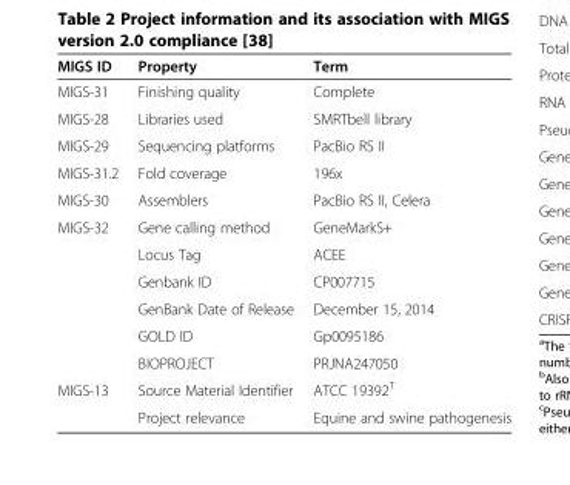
<table><thead><tr><td>MIGS ID</td><td>Property</td><td>Term</td></tr></thead><tbody><tr><td>MIGS-31</td><td>Finishing quality</td><td>Complete</td></tr><tr><td>MIGS-28</td><td>Libraries used</td><td>SMRTbell library</td></tr><tr><td>MIGS-29</td><td>Sequencing platforms</td><td>PacBio RS II</td></tr><tr><td>MIGS-31.2</td><td>Fold coverage</td><td>196x</td></tr><tr><td>MIGS-30</td><td>Assemblers</td><td>PacBio RS II, Celera</td></tr><tr><td rowspan="6">MIGS-32</td><td>Gene calling method</td><td>GeneMarkS+</td></tr><tr><td>Locus Tag</td><td>ACEE</td></tr><tr><td>Genbank ID</td><td>CP007715</td></tr><tr><td>GenBank Date of Release</td><td>December 15, 2014</td></tr><tr><td>GOLD ID</td><td>Gp0095186</td></tr><tr><td>BIOPROJECT</td><td>PRJNA247050</td></tr><tr><td rowspan="2">MIGS-13</td><td>Source Material Identifier</td><td>ATCC 19392<sup>T</sup></td></tr><tr><td>Project relevance</td><td>Equine and swine pathogenesis</td></tr></tbody></table>